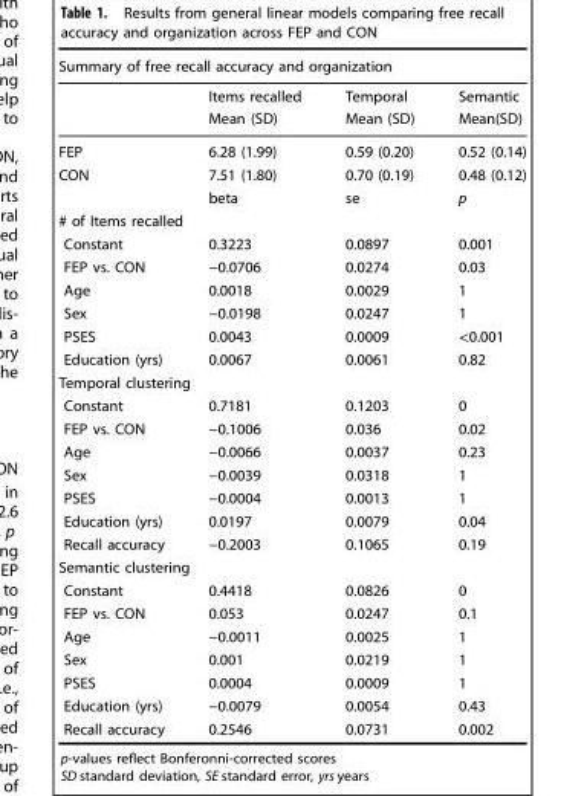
<table><thead><tr><td colspan="4">Summary of free recall accuracy and organization</td></tr><tr><td rowspan="2"></td><td rowspan="2">Items recalled Mean (SD)</td><td rowspan="2">Temporal Mean (SD)</td><td rowspan="2">Semantic Mean(SD)</td></tr><tr></tr></thead><tbody><tr><td>FEP</td><td>6.28 (1.99)</td><td>0.59 (0.20)</td><td>0.52 (0.14)</td></tr><tr><td rowspan="2">CON</td><td>7.51 (1.80)</td><td>0.70 (0.19)</td><td>0.48 (0.12)</td></tr><tr><td>beta</td><td>se</td><td>p</td></tr><tr><td colspan="4"># of Items recalled</td></tr><tr><td>Constant</td><td>0.3223</td><td>0.0897</td><td>0.001</td></tr><tr><td>FEP vs. CON</td><td>−0.0706</td><td>0.0274</td><td>0.03</td></tr><tr><td>Age</td><td>0.0018</td><td>0.0029</td><td>1</td></tr><tr><td>Sex</td><td>−0.0198</td><td>0.0247</td><td>1</td></tr><tr><td>PSES</td><td>0.0043</td><td>0.0009</td><td>&lt;0.001</td></tr><tr><td>Education (yrs)</td><td>0.0067</td><td>0.0061</td><td>0.82</td></tr><tr><td colspan="4">Temporal clustering</td></tr><tr><td>Constant</td><td>0.7181</td><td>0.1203</td><td>0</td></tr><tr><td>FEP vs. CON</td><td>−0.1006</td><td>0.036</td><td>0.02</td></tr><tr><td>Age</td><td>−0.0066</td><td>0.0037</td><td>0.23</td></tr><tr><td>Sex</td><td>−0.0039</td><td>0.0318</td><td>1</td></tr><tr><td>PSES</td><td>−0.0004</td><td>0.0013</td><td>1</td></tr><tr><td>Education (yrs)</td><td>0.0197</td><td>0.0079</td><td>0.04</td></tr><tr><td>Recall accuracy</td><td>−0.2003</td><td>0.1065</td><td>0.19</td></tr><tr><td colspan="4">Semantic clustering</td></tr><tr><td>Constant</td><td>0.4418</td><td>0.0826</td><td>0</td></tr><tr><td>FEP vs. CON</td><td>0.053</td><td>0.0247</td><td>0.1</td></tr><tr><td>Age</td><td>−0.0011</td><td>0.0025</td><td>1</td></tr><tr><td>Sex</td><td>0.001</td><td>0.0219</td><td>1</td></tr><tr><td>PSES</td><td>0.0004</td><td>0.0009</td><td>1</td></tr><tr><td>Education (yrs)</td><td>−0.0079</td><td>0.0054</td><td>0.43</td></tr><tr><td>Recall accuracy</td><td>0.2546</td><td>0.0731</td><td>0.002</td></tr></tbody></table>